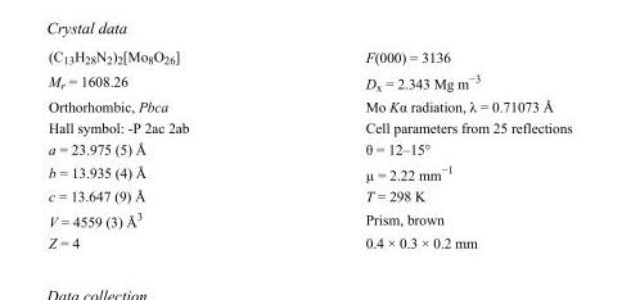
<table><tbody><tr><td>(C<sub>13</sub>H<sub>28</sub>N<sub>2</sub>)<sub>2</sub>[Mo<sub>8</sub>O<sub>26</sub>]</td><td>F(000) = 3136</td></tr><tr><td>M<sub>r</sub> = 1608.26</td><td>D<sub>x</sub> = 2.343 Mg m<sup>−3</sup></td></tr><tr><td>Orthorhombic, Pbca</td><td>Mo Kα radiation, λ = 0.71073 Å</td></tr><tr><td>Hall symbol: -P 2ac 2ab</td><td>Cell parameters from 25 reflections</td></tr><tr><td>a = 23.975 (5) Å</td><td>θ = 12–15°</td></tr><tr><td>b = 13.935 (4) Å</td><td>µ = 2.22 mm<sup>−1</sup></td></tr><tr><td>c = 13.647 (9) Å</td><td>T = 298 K</td></tr><tr><td>V = 4559 (3) Å<sup>3</sup></td><td>Prism, brown</td></tr><tr><td>Z = 4</td><td>0.4 × 0.3 × 0.2 mm</td></tr></tbody></table>